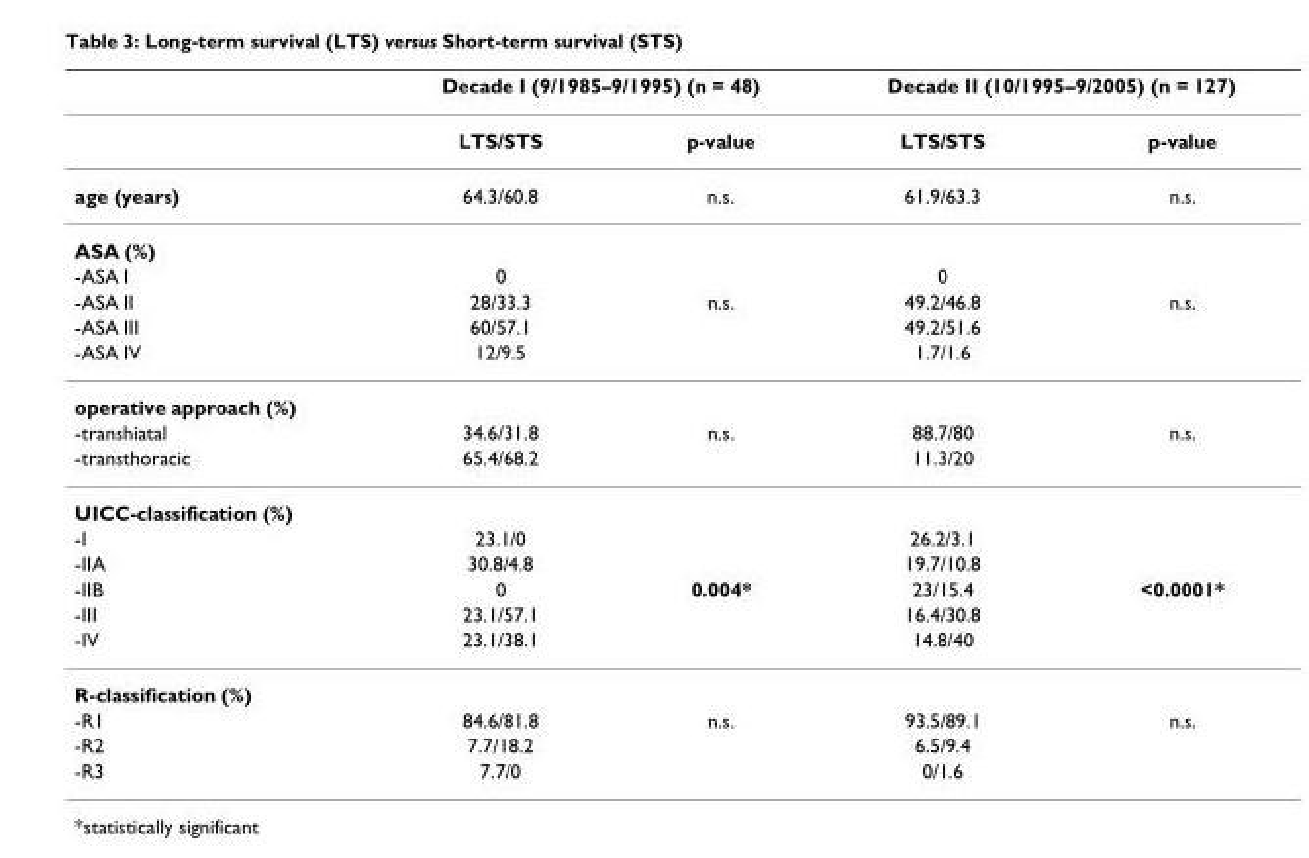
<table><thead><tr><td rowspan="2"></td><td colspan="2">Decade I (9/1985–9/1995) (n = 48)</td><td colspan="2">Decade II (10/1995–9/2005) (n = 127)</td></tr><tr><td>LTS/STS</td><td>p-value</td><td>LTS/STS</td><td>p-value</td></tr></thead><tbody><tr><td>age (years)</td><td>64.3/60.8</td><td>n.s.</td><td>61.9/63.3</td><td>n.s.</td></tr><tr><td colspan="5">ASA (%)</td></tr><tr><td>-ASA I</td><td>0</td><td></td><td>0</td><td></td></tr><tr><td>-ASA II</td><td>28/33.3</td><td>n.s.</td><td>49.2/46.8</td><td>n.s.</td></tr><tr><td>-ASA III</td><td>60/57.1</td><td></td><td>49.2/51.6</td><td></td></tr><tr><td>-ASA IV</td><td>12/9.5</td><td></td><td>1.7/1.6</td><td></td></tr><tr><td colspan="5">operative approach (%)</td></tr><tr><td>-transhiatal</td><td>34.6/31.8</td><td>n.s.</td><td>88.7/80</td><td>n.s.</td></tr><tr><td>-transthoracic</td><td>65.4/68.2</td><td></td><td>11.3/20</td><td></td></tr><tr><td colspan="5">UICC-classification (%)</td></tr><tr><td>-I</td><td>23.1/0</td><td></td><td>26.2/3.1</td><td></td></tr><tr><td>-IIA</td><td>30.8/4.8</td><td></td><td>19.7/10.8</td><td></td></tr><tr><td>-IIB</td><td>0</td><td>0.004*</td><td>23/15.4</td><td>&lt;0.0001*</td></tr><tr><td>-III</td><td>23.1/57.1</td><td></td><td>16.4/30.8</td><td></td></tr><tr><td>-IV</td><td>23.1/38.1</td><td></td><td>14.8/40</td><td></td></tr><tr><td colspan="5">R-classification (%)</td></tr><tr><td>-R1</td><td>84.6/81.8</td><td>n.s.</td><td>93.5/89.1</td><td>n.s.</td></tr><tr><td>-R2</td><td>7.7/18.2</td><td></td><td>6.5/9.4</td><td></td></tr><tr><td>-R3</td><td>7.7/0</td><td></td><td>0/1.6</td><td></td></tr></tbody></table>